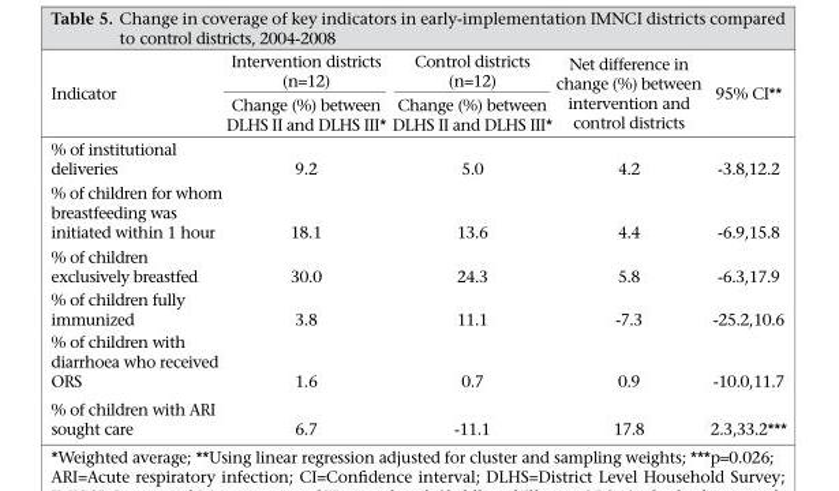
<table><thead><tr><td rowspan="2">Indicator</td><td rowspan="2">Intervention districts (n=12) Change (%) between DLHS II and DLHS III*</td><td rowspan="2">Control districts (n=12) Change (%) between DLHS II and DLHS III*</td><td rowspan="2">Net difference in change (%) between intervention and control districts</td><td rowspan="2">95% CI**</td></tr><tr></tr></thead><tbody><tr><td>% of institutional deliveries</td><td>9.2</td><td>5.0</td><td>4.2</td><td>-3.8,12.2</td></tr><tr><td>% of children for whom breastfeeding was initiated within 1 hour</td><td>18.1</td><td>13.6</td><td>4.4</td><td>-6.9,15.8</td></tr><tr><td>% of children exclusively breastfed</td><td>30.0</td><td>24.3</td><td>5.8</td><td>-6.3,17.9</td></tr><tr><td>% of children fully immunized</td><td>3.8</td><td>11.1</td><td>-7.3</td><td>-25.2,10.6</td></tr><tr><td>% of children with diarrhoea who received ORS</td><td>1.6</td><td>0.7</td><td>0.9</td><td>-10.0,11.7</td></tr><tr><td>% of children with ARI sought care</td><td>6.7</td><td>-11.1</td><td>17.8</td><td>2.3,33.2***</td></tr></tbody></table>